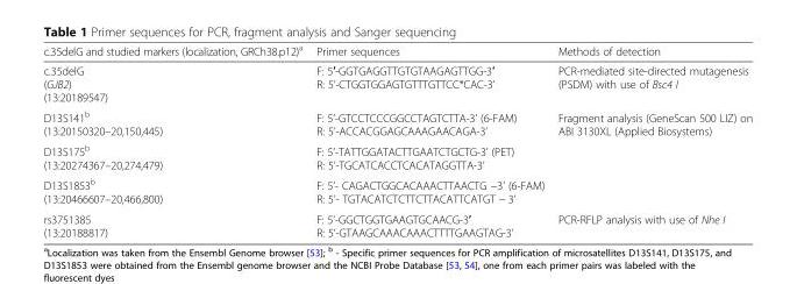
<table><thead><tr><td>c.35delG and studied markers (localization, GRCh38.p12)<sup>a</sup></td><td>Primer sequences</td><td>Methods of detection</td></tr></thead><tbody><tr><td>c.35delG (GJB2) (13:20189547)</td><td>F: 5′-GGTGAGGTTGTGTAAGAGTTGG-3′ R: 5’-CTGGTGGAGTGTTTGTTCC*CAC-3’</td><td>PCR-mediated site-directed mutagenesis (PSDM) with use of Bsc4 I</td></tr><tr><td>D13S141<sup>b</sup> (13:20150320–20,150,445)</td><td>F: 5’-GTCCTCCCGGCCTAGTCTTA-3’ (6-FAM) R: 5’-ACCACGGAGCAAAGAACAGA-3’</td><td rowspan="3">Fragment analysis (GeneScan 500 LIZ) on ABI 3130XL (Applied Biosystems)</td></tr><tr><td>D13S175<sup>b</sup> (13:20274367–20,274,479)</td><td>F: 5’-TATTGGATACTTGAATCTGCTG-3’ (PET) R: 5’-TGCATCACCTCACATAGGTTA-3’</td></tr><tr><td>D13S1853<sup>b</sup> (13:20466607–20,466,800)</td><td>F: 5’- CAGACTGGCACAAACTTAACTG −3’ (6-FAM) R: 5’- TGTACATCTCTTCTTACATTCATGT − 3’</td></tr><tr><td>rs3751385 (13:20188817)</td><td>F: 5’-GGCTGGTGAAGTGCAACG-3′ R: 5’-GTAAGCAAACAAACTTTTGAAGTAG-3’</td><td>PCR-RFLP analysis with use of Nhe I</td></tr></tbody></table>